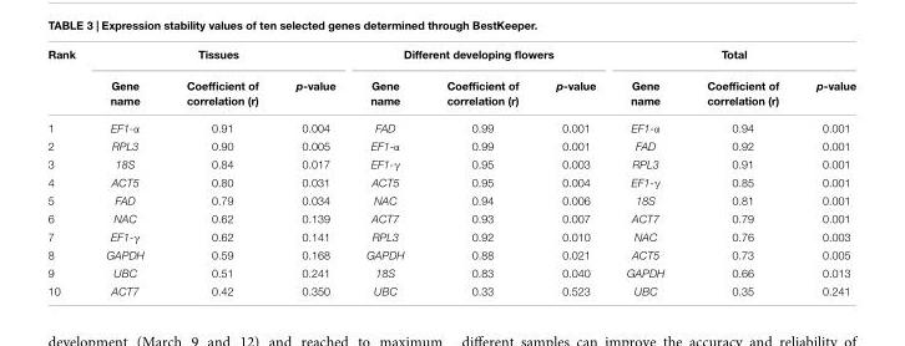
<table><thead><tr><td rowspan="2">Rank</td><td colspan="3">Tissues</td><td colspan="3">Different developing flowers</td><td colspan="3">Total</td></tr><tr><td>Gene name</td><td>Coefficient of correlation (r)</td><td>p-value</td><td>Gene name</td><td>Coefficient of correlation (r)</td><td>p-value</td><td>Gene name</td><td>Coefficient of correlation (r)</td><td>p-value</td></tr></thead><tbody><tr><td>1</td><td>EF1-α</td><td>0.91</td><td>0.004</td><td>FAD</td><td>0.99</td><td>0.001</td><td>EF1-α</td><td>0.94</td><td>0.001</td></tr><tr><td>2</td><td>RPL3</td><td>0.90</td><td>0.005</td><td>EF1-α</td><td>0.99</td><td>0.001</td><td>FAD</td><td>0.92</td><td>0.001</td></tr><tr><td>3</td><td>18S</td><td>0.84</td><td>0.017</td><td>EF1-γ</td><td>0.95</td><td>0.003</td><td>RPL3</td><td>0.91</td><td>0.001</td></tr><tr><td>4</td><td>ACT5</td><td>0.80</td><td>0.031</td><td>ACT5</td><td>0.95</td><td>0.004</td><td>EF1-γ</td><td>0.85</td><td>0.001</td></tr><tr><td>5</td><td>FAD</td><td>0.79</td><td>0.034</td><td>NAC</td><td>0.94</td><td>0.006</td><td>18S</td><td>0.81</td><td>0.001</td></tr><tr><td>6</td><td>NAC</td><td>0.62</td><td>0.139</td><td>ACT7</td><td>0.93</td><td>0.007</td><td>ACT7</td><td>0.79</td><td>0.001</td></tr><tr><td>7</td><td>EF1-γ</td><td>0.62</td><td>0.141</td><td>RPL3</td><td>0.92</td><td>0.010</td><td>NAC</td><td>0.76</td><td>0.003</td></tr><tr><td>8</td><td>GAPDH</td><td>0.59</td><td>0.168</td><td>GAPDH</td><td>0.88</td><td>0.021</td><td>ACT5</td><td>0.73</td><td>0.005</td></tr><tr><td>9</td><td>UBC</td><td>0.51</td><td>0.241</td><td>18S</td><td>0.83</td><td>0.040</td><td>GAPDH</td><td>0.66</td><td>0.013</td></tr><tr><td>10</td><td>ACT7</td><td>0.42</td><td>0.350</td><td>UBC</td><td>0.33</td><td>0.523</td><td>UBC</td><td>0.35</td><td>0.241</td></tr></tbody></table>